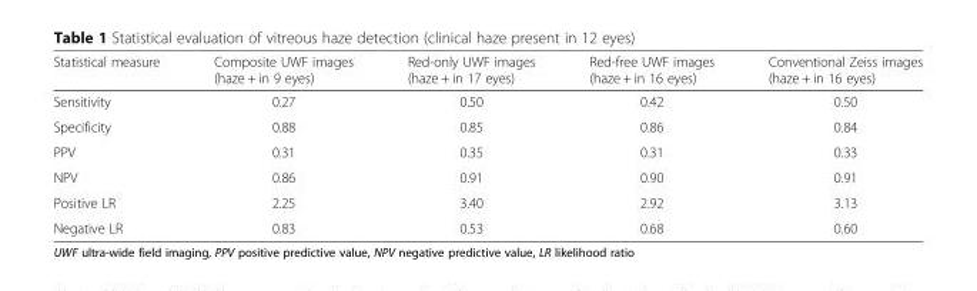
<table><thead><tr><td>Statistical measure</td><td>Composite UWF images (haze + in 9 eyes)</td><td>Red-only UWF images (haze + in 17 eyes)</td><td>Red-free UWF images (haze + in 16 eyes)</td><td>Conventional Zeiss images (haze + in 16 eyes)</td></tr></thead><tbody><tr><td>Sensitivity</td><td>0.27</td><td>0.50</td><td>0.42</td><td>0.50</td></tr><tr><td>Specificity</td><td>0.88</td><td>0.85</td><td>0.86</td><td>0.84</td></tr><tr><td>PPV</td><td>0.31</td><td>0.35</td><td>0.31</td><td>0.33</td></tr><tr><td>NPV</td><td>0.86</td><td>0.91</td><td>0.90</td><td>0.91</td></tr><tr><td>Positive LR</td><td>2.25</td><td>3.40</td><td>2.92</td><td>3.13</td></tr><tr><td>Negative LR</td><td>0.83</td><td>0.53</td><td>0.68</td><td>0.60</td></tr></tbody></table>